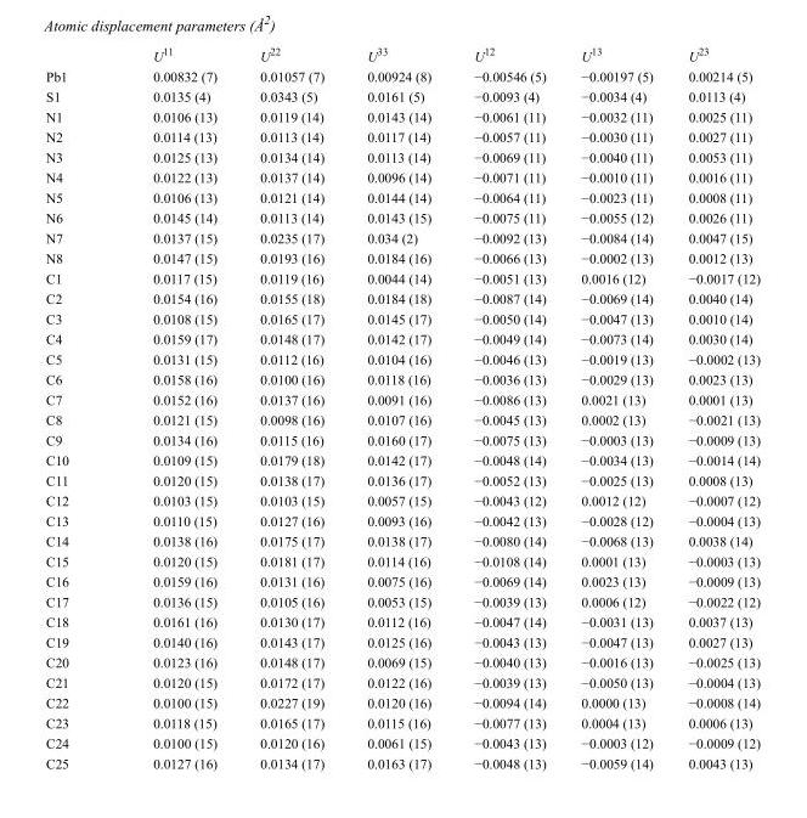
<table><thead><tr><td></td><td>U<sup>11</sup></td><td>U<sup>22</sup></td><td>U<sup>33</sup></td><td>U<sup>12</sup></td><td>U<sup>13</sup></td><td>U<sup>23</sup></td></tr></thead><tbody><tr><td>Pb1</td><td>0.00832 (7)</td><td>0.01057 (7)</td><td>0.00924 (8)</td><td>−0.00546 (5)</td><td>−0.00197 (5)</td><td>0.00214 (5)</td></tr><tr><td>S1</td><td>0.0135 (4)</td><td>0.0343 (5)</td><td>0.0161 (5)</td><td>−0.0093 (4)</td><td>−0.0034 (4)</td><td>0.0113 (4)</td></tr><tr><td>N1</td><td>0.0106 (13)</td><td>0.0119 (14)</td><td>0.0143 (14)</td><td>−0.0061 (11)</td><td>−0.0032 (11)</td><td>0.0025 (11)</td></tr><tr><td>N2</td><td>0.0114 (13)</td><td>0.0113 (14)</td><td>0.0117 (14)</td><td>−0.0057 (11)</td><td>−0.0030 (11)</td><td>0.0027 (11)</td></tr><tr><td>N3</td><td>0.0125 (13)</td><td>0.0134 (14)</td><td>0.0113 (14)</td><td>−0.0069 (11)</td><td>−0.0040 (11)</td><td>0.0053 (11)</td></tr><tr><td>N4</td><td>0.0122 (13)</td><td>0.0137 (14)</td><td>0.0096 (14)</td><td>−0.0071 (11)</td><td>−0.0010 (11)</td><td>0.0016 (11)</td></tr><tr><td>N5</td><td>0.0106 (13)</td><td>0.0121 (14)</td><td>0.0144 (14)</td><td>−0.0064 (11)</td><td>−0.0023 (11)</td><td>0.0008 (11)</td></tr><tr><td>N6</td><td>0.0145 (14)</td><td>0.0113 (14)</td><td>0.0143 (15)</td><td>−0.0075 (11)</td><td>−0.0055 (12)</td><td>0.0026 (11)</td></tr><tr><td>N7</td><td>0.0137 (15)</td><td>0.0235 (17)</td><td>0.034 (2)</td><td>−0.0092 (13)</td><td>−0.0084 (14)</td><td>0.0047 (15)</td></tr><tr><td>N8</td><td>0.0147 (15)</td><td>0.0193 (16)</td><td>0.0184 (16)</td><td>−0.0066 (13)</td><td>−0.0002 (13)</td><td>0.0012 (13)</td></tr><tr><td>C1</td><td>0.0117 (15)</td><td>0.0119 (16)</td><td>0.0044 (14)</td><td>−0.0051 (13)</td><td>0.0016 (12)</td><td>−0.0017 (12)</td></tr><tr><td>C2</td><td>0.0154 (16)</td><td>0.0155 (18)</td><td>0.0184 (18)</td><td>−0.0087 (14)</td><td>−0.0069 (14)</td><td>0.0040 (14)</td></tr><tr><td>C3</td><td>0.0108 (15)</td><td>0.0165 (17)</td><td>0.0145 (17)</td><td>−0.0050 (14)</td><td>−0.0047 (13)</td><td>0.0010 (14)</td></tr><tr><td>C4</td><td>0.0159 (17)</td><td>0.0148 (17)</td><td>0.0142 (17)</td><td>−0.0049 (14)</td><td>−0.0073 (14)</td><td>0.0030 (14)</td></tr><tr><td>C5</td><td>0.0131 (15)</td><td>0.0112 (16)</td><td>0.0104 (16)</td><td>−0.0046 (13)</td><td>−0.0019 (13)</td><td>−0.0002 (13)</td></tr><tr><td>C6</td><td>0.0158 (16)</td><td>0.0100 (16)</td><td>0.0118 (16)</td><td>−0.0036 (13)</td><td>−0.0029 (13)</td><td>0.0023 (13)</td></tr><tr><td>C7</td><td>0.0152 (16)</td><td>0.0137 (16)</td><td>0.0091 (16)</td><td>−0.0086 (13)</td><td>0.0021 (13)</td><td>0.0001 (13)</td></tr><tr><td>C8</td><td>0.0121 (15)</td><td>0.0098 (16)</td><td>0.0107 (16)</td><td>−0.0045 (13)</td><td>0.0002 (13)</td><td>−0.0021 (13)</td></tr><tr><td>C9</td><td>0.0134 (16)</td><td>0.0115 (16)</td><td>0.0160 (17)</td><td>−0.0075 (13)</td><td>−0.0003 (13)</td><td>−0.0009 (13)</td></tr><tr><td>C10</td><td>0.0109 (15)</td><td>0.0179 (18)</td><td>0.0142 (17)</td><td>−0.0048 (14)</td><td>−0.0034 (13)</td><td>−0.0014 (14)</td></tr><tr><td>C11</td><td>0.0120 (15)</td><td>0.0138 (17)</td><td>0.0136 (17)</td><td>−0.0052 (13)</td><td>−0.0025 (13)</td><td>0.0008 (13)</td></tr><tr><td>C12</td><td>0.0103 (15)</td><td>0.0103 (15)</td><td>0.0057 (15)</td><td>−0.0043 (12)</td><td>0.0012 (12)</td><td>−0.0007 (12)</td></tr><tr><td>C13</td><td>0.0110 (15)</td><td>0.0127 (16)</td><td>0.0093 (16)</td><td>−0.0042 (13)</td><td>−0.0028 (12)</td><td>−0.0004 (13)</td></tr><tr><td>C14</td><td>0.0138 (16)</td><td>0.0175 (17)</td><td>0.0138 (17)</td><td>−0.0080 (14)</td><td>−0.0068 (13)</td><td>0.0038 (14)</td></tr><tr><td>C15</td><td>0.0120 (15)</td><td>0.0181 (17)</td><td>0.0114 (16)</td><td>−0.0108 (14)</td><td>0.0001 (13)</td><td>−0.0003 (13)</td></tr><tr><td>C16</td><td>0.0159 (16)</td><td>0.0131 (16)</td><td>0.0075 (16)</td><td>−0.0069 (14)</td><td>0.0023 (13)</td><td>−0.0009 (13)</td></tr><tr><td>C17</td><td>0.0136 (15)</td><td>0.0105 (16)</td><td>0.0053 (15)</td><td>−0.0039 (13)</td><td>0.0006 (12)</td><td>−0.0022 (12)</td></tr><tr><td>C18</td><td>0.0161 (16)</td><td>0.0130 (17)</td><td>0.0112 (16)</td><td>−0.0047 (14)</td><td>−0.0031 (13)</td><td>0.0037 (13)</td></tr><tr><td>C19</td><td>0.0140 (16)</td><td>0.0143 (17)</td><td>0.0125 (16)</td><td>−0.0043 (13)</td><td>−0.0047 (13)</td><td>0.0027 (13)</td></tr><tr><td>C20</td><td>0.0123 (16)</td><td>0.0148 (17)</td><td>0.0069 (15)</td><td>−0.0040 (13)</td><td>−0.0016 (13)</td><td>−0.0025 (13)</td></tr><tr><td>C21</td><td>0.0120 (15)</td><td>0.0172 (17)</td><td>0.0122 (16)</td><td>−0.0039 (13)</td><td>−0.0050 (13)</td><td>−0.0004 (13)</td></tr><tr><td>C22</td><td>0.0100 (15)</td><td>0.0227 (19)</td><td>0.0120 (16)</td><td>−0.0094 (14)</td><td>0.0000 (13)</td><td>−0.0008 (14)</td></tr><tr><td>C23</td><td>0.0118 (15)</td><td>0.0165 (17)</td><td>0.0115 (16)</td><td>−0.0077 (13)</td><td>0.0004 (13)</td><td>0.0006 (13)</td></tr><tr><td>C24</td><td>0.0100 (15)</td><td>0.0120 (16)</td><td>0.0061 (15)</td><td>−0.0043 (13)</td><td>−0.0003 (12)</td><td>−0.0009 (12)</td></tr><tr><td>C25</td><td>0.0127 (16)</td><td>0.0134 (17)</td><td>0.0163 (17)</td><td>−0.0048 (13)</td><td>−0.0059 (14)</td><td>0.0043 (13)</td></tr></tbody></table>